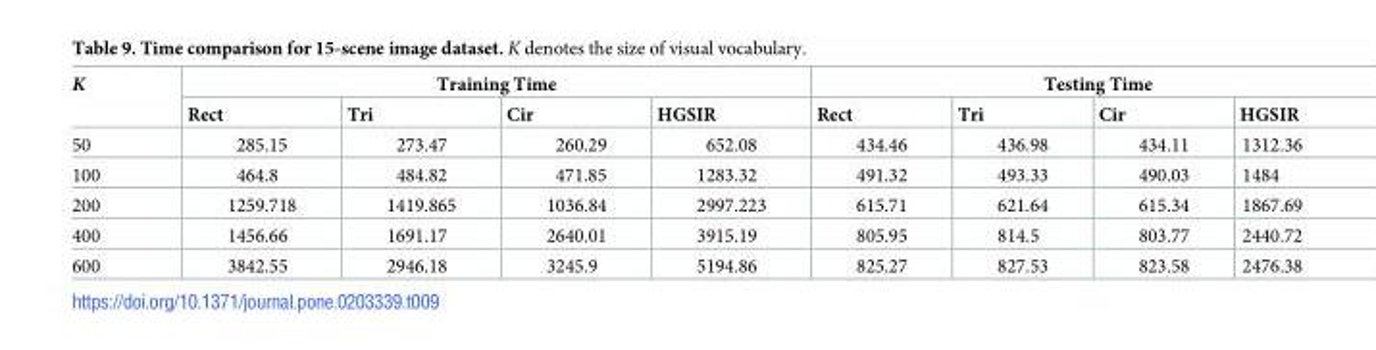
<table><thead><tr><td rowspan="2">K</td><td colspan="4">Training Time</td><td colspan="4">Testing Time</td></tr><tr><td>Rect</td><td>Tri</td><td>Cir</td><td>HGSIR</td><td>Rect</td><td>Tri</td><td>Cir</td><td>HGSIR</td></tr></thead><tbody><tr><td>50</td><td>285.15</td><td>273.47</td><td>260.29</td><td>652.08</td><td>434.46</td><td>436.98</td><td>434.11</td><td>1312.36</td></tr><tr><td>100</td><td>464.8</td><td>484.82</td><td>471.85</td><td>1283.32</td><td>491.32</td><td>493.33</td><td>490.03</td><td>1484</td></tr><tr><td>200</td><td>1259.718</td><td>1419.865</td><td>1036.84</td><td>2997.223</td><td>615.71</td><td>621.64</td><td>615.34</td><td>1867.69</td></tr><tr><td>400</td><td>1456.66</td><td>1691.17</td><td>2640.01</td><td>3915.19</td><td>805.95</td><td>814.5</td><td>803.77</td><td>2440.72</td></tr><tr><td>600</td><td>3842.55</td><td>2946.18</td><td>3245.9</td><td>5194.86</td><td>825.27</td><td>827.53</td><td>823.58</td><td>2476.38</td></tr></tbody></table>